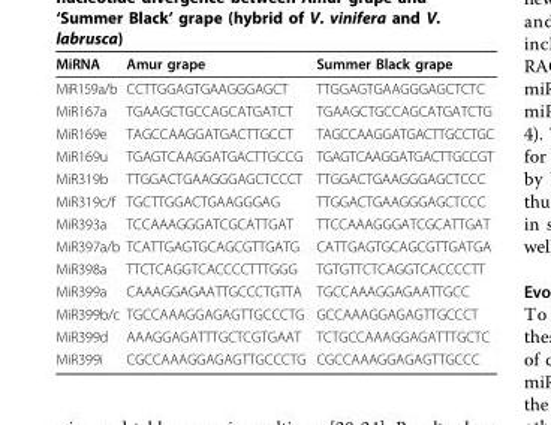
<table><thead><tr><td>MiRNA</td><td>Amur grape</td><td>Summer Black grape</td></tr></thead><tbody><tr><td>MiR159a/b</td><td>CCTTGGAGTGAAGGGAGCT</td><td>TTGGAGTGAAGGGAGCTCTC</td></tr><tr><td>MiR167a</td><td>TGAAGCTGCCAGCATGATCT</td><td>TGAAGCTGCCAGCATGATCTG</td></tr><tr><td>MiR169e</td><td>TAGCCAAGGATGACTTGCCT</td><td>TAGCCAAGGATGACTTGCCTGC</td></tr><tr><td>MiR169u</td><td>TGAGTCAAGGATGACTTGCCG</td><td>TGAGTCAAGGATGACTTGCCGT</td></tr><tr><td>MiR319b</td><td>TTGGACTGAAGGGAGCTCCCT</td><td>TTGGACTGAAGGGAGCTCCC</td></tr><tr><td>MiR319c/f</td><td>TGCTTGGACTGAAGGGAG</td><td>TTGGACTGAAGGGAGCTCCC</td></tr><tr><td>MiR393a</td><td>TCCAAAGGGATCGCATTGAT</td><td>TTCCAAAGGGATCGCATTGAT</td></tr><tr><td>MiR397a/b</td><td>TCATTGAGTGCAGCGTTGATG</td><td>CATTGAGTGCAGCGTTGATGA</td></tr><tr><td>MiR398a</td><td>TTCTCAGGTCACCCCTTTGGG</td><td>TGTGTTCTCAGGTCACCCCTT</td></tr><tr><td>MiR399a</td><td>CAAAGGAGAATTGCCCTGTTA</td><td>TGCCAAAGGAGAATTGCC</td></tr><tr><td>MiR399b/c</td><td>TGCCAAAGGAGAGTTGCCCTG</td><td>GCCAAAGGAGAGTTGCCCT</td></tr><tr><td>MiR399d</td><td>AAAGGAGATTTGCTCGTGAAT</td><td>TCTGCCAAAGGAGATTTGCTC</td></tr><tr><td>MiR399i</td><td>CGCCAAAGGAGAGTTGCCCTG</td><td>CGCCAAAGGAGAGTTGCCC</td></tr></tbody></table>